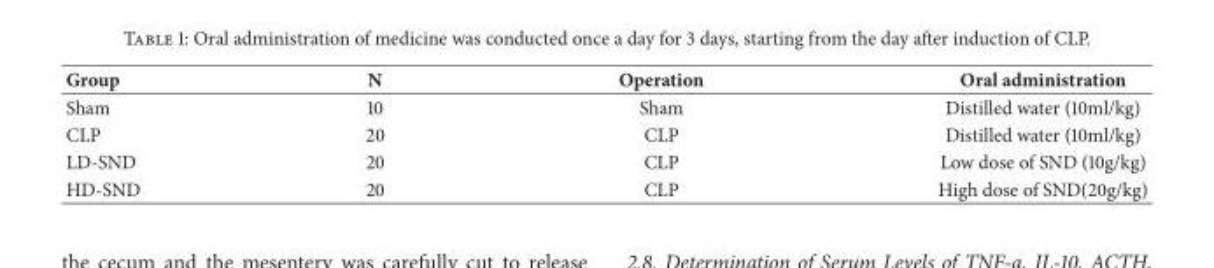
<table><thead><tr><td>Group</td><td>N</td><td>Operation</td><td>Oral administration</td></tr></thead><tbody><tr><td>Sham</td><td>10</td><td>Sham</td><td>Distilled water (10ml/kg)</td></tr><tr><td>CLP</td><td>20</td><td>CLP</td><td>Distilled water (10ml/kg)</td></tr><tr><td>LD-SND</td><td>20</td><td>CLP</td><td>Low dose of SND (10g/kg)</td></tr><tr><td>HD-SND</td><td>20</td><td>CLP</td><td>High dose of SND(20g/kg)</td></tr></tbody></table>